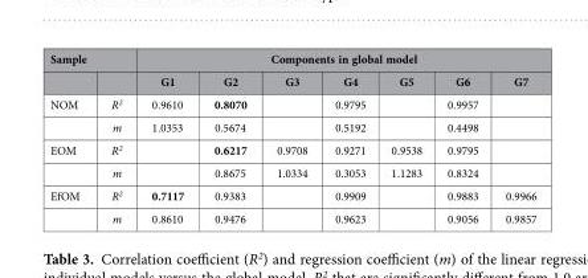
<table><thead><tr><td colspan="2">Sample</td><td colspan="7">Components in global model</td></tr><tr><td></td><td></td><td>G1</td><td>G2</td><td>G3</td><td>G4</td><td>G5</td><td>G6</td><td>G7</td></tr></thead><tbody><tr><td rowspan="2">NOM</td><td>R<sup>2</sup></td><td>0.9610</td><td>0.8070</td><td></td><td>0.9795</td><td></td><td>0.9957</td><td></td></tr><tr><td>m</td><td>1.0353</td><td>0.5674</td><td></td><td>0.5192</td><td></td><td>0.4498</td><td></td></tr><tr><td rowspan="2">EOM</td><td>R<sup>2</sup></td><td></td><td>0.6217</td><td>0.9708</td><td>0.9271</td><td>0.9538</td><td>0.9795</td><td></td></tr><tr><td>m</td><td></td><td>0.8675</td><td>1.0334</td><td>0.3053</td><td>1.1283</td><td>0.8324</td><td></td></tr><tr><td rowspan="2">EfOM</td><td>R<sup>2</sup></td><td>0.7117</td><td>0.9383</td><td></td><td>0.9909</td><td></td><td>0.9883</td><td>0.9966</td></tr><tr><td>m</td><td>0.8610</td><td>0.9476</td><td></td><td>0.9623</td><td></td><td>0.9056</td><td>0.9857</td></tr></tbody></table>